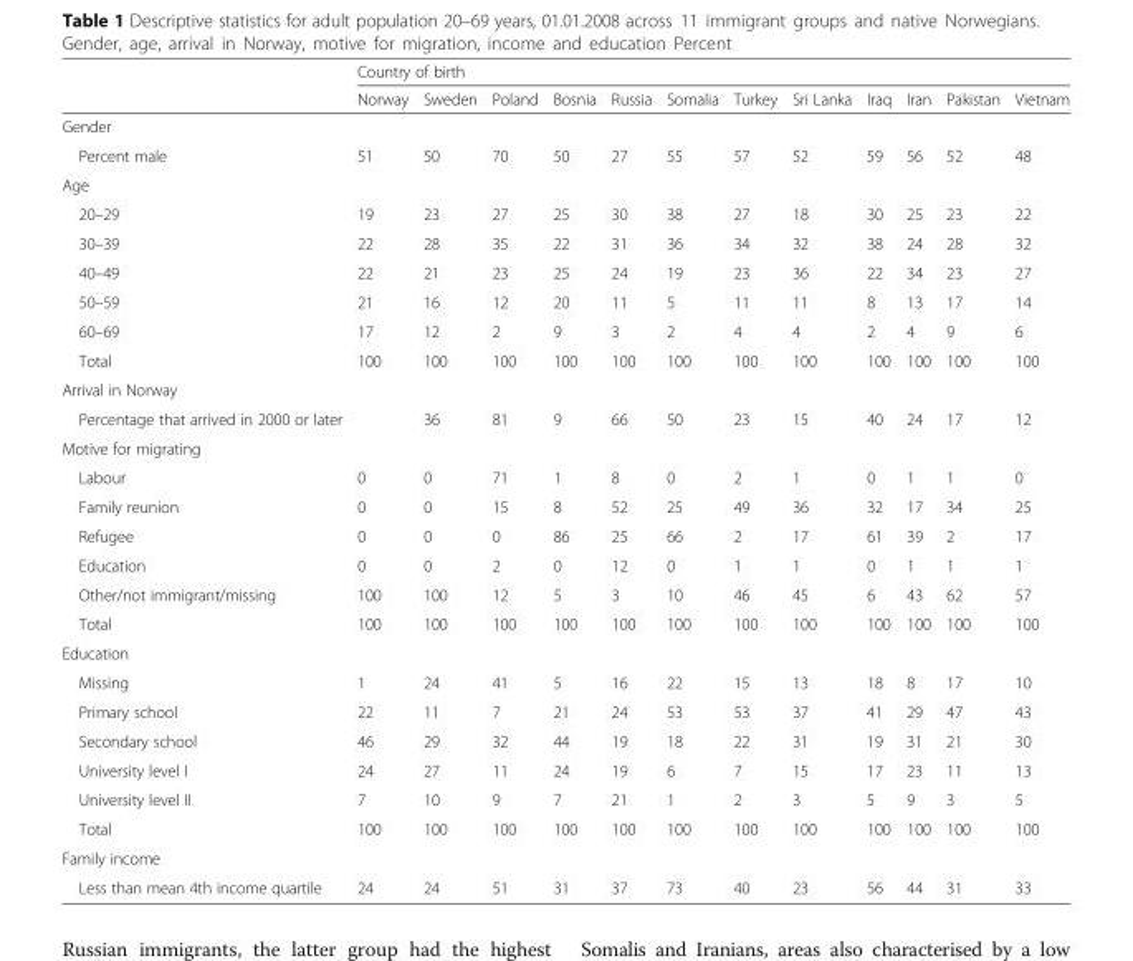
<table><thead><tr><td rowspan="2"></td><td colspan="12">Country of birth</td></tr><tr><td>Norway</td><td>Sweden</td><td>Poland</td><td>Bosnia</td><td>Russia</td><td>Somalia</td><td>Turkey</td><td>Sri Lanka</td><td>Iraq</td><td>Iran</td><td>Pakistan</td><td>Vietnam</td></tr></thead><tbody><tr><td colspan="13">Gender</td></tr><tr><td>Percent male</td><td>51</td><td>50</td><td>70</td><td>50</td><td>27</td><td>55</td><td>57</td><td>52</td><td>59</td><td>56</td><td>52</td><td>48</td></tr><tr><td colspan="13">Age</td></tr><tr><td>20–29</td><td>19</td><td>23</td><td>27</td><td>25</td><td>30</td><td>38</td><td>27</td><td>18</td><td>30</td><td>25</td><td>23</td><td>22</td></tr><tr><td>30–39</td><td>22</td><td>28</td><td>35</td><td>22</td><td>31</td><td>36</td><td>34</td><td>32</td><td>38</td><td>24</td><td>28</td><td>32</td></tr><tr><td>40–49</td><td>22</td><td>21</td><td>23</td><td>25</td><td>24</td><td>19</td><td>23</td><td>36</td><td>22</td><td>34</td><td>23</td><td>27</td></tr><tr><td>50–59</td><td>21</td><td>16</td><td>12</td><td>20</td><td>11</td><td>5</td><td>11</td><td>11</td><td>8</td><td>13</td><td>17</td><td>14</td></tr><tr><td>60–69</td><td>17</td><td>12</td><td>2</td><td>9</td><td>3</td><td>2</td><td>4</td><td>4</td><td>2</td><td>4</td><td>9</td><td>6</td></tr><tr><td>Total</td><td>100</td><td>100</td><td>100</td><td>100</td><td>100</td><td>100</td><td>100</td><td>100</td><td>100</td><td>100</td><td>100</td><td>100</td></tr><tr><td colspan="13">Arrival in Norway</td></tr><tr><td>Percentage that arrived in 2000 or later</td><td></td><td>36</td><td>81</td><td>9</td><td>66</td><td>50</td><td>23</td><td>15</td><td>40</td><td>24</td><td>17</td><td>12</td></tr><tr><td colspan="13">Motive for migrating</td></tr><tr><td>Labour</td><td>0</td><td>0</td><td>71</td><td>1</td><td>8</td><td>0</td><td>2</td><td>1</td><td>0</td><td>1</td><td>1</td><td>0</td></tr><tr><td>Family reunion</td><td>0</td><td>0</td><td>15</td><td>8</td><td>52</td><td>25</td><td>49</td><td>36</td><td>32</td><td>17</td><td>34</td><td>25</td></tr><tr><td>Refugee</td><td>0</td><td>0</td><td>0</td><td>86</td><td>25</td><td>66</td><td>2</td><td>17</td><td>61</td><td>39</td><td>2</td><td>17</td></tr><tr><td>Education</td><td>0</td><td>0</td><td>2</td><td>0</td><td>12</td><td>0</td><td>1</td><td>1</td><td>0</td><td>1</td><td>1</td><td>1</td></tr><tr><td>Other/not immigrant/missing</td><td>100</td><td>100</td><td>12</td><td>5</td><td>3</td><td>10</td><td>46</td><td>45</td><td>6</td><td>43</td><td>62</td><td>57</td></tr><tr><td>Total</td><td>100</td><td>100</td><td>100</td><td>100</td><td>100</td><td>100</td><td>100</td><td>100</td><td>100</td><td>100</td><td>100</td><td>100</td></tr><tr><td colspan="13">Education</td></tr><tr><td>Missing</td><td>1</td><td>24</td><td>41</td><td>5</td><td>16</td><td>22</td><td>15</td><td>13</td><td>18</td><td>8</td><td>17</td><td>10</td></tr><tr><td>Primary school</td><td>22</td><td>11</td><td>7</td><td>21</td><td>24</td><td>53</td><td>53</td><td>37</td><td>41</td><td>29</td><td>47</td><td>43</td></tr><tr><td>Secondary school</td><td>46</td><td>29</td><td>32</td><td>44</td><td>19</td><td>18</td><td>22</td><td>31</td><td>19</td><td>31</td><td>21</td><td>30</td></tr><tr><td>University level I</td><td>24</td><td>27</td><td>11</td><td>24</td><td>19</td><td>6</td><td>7</td><td>15</td><td>17</td><td>23</td><td>11</td><td>13</td></tr><tr><td>University level II</td><td>7</td><td>10</td><td>9</td><td>7</td><td>21</td><td>1</td><td>2</td><td>3</td><td>5</td><td>9</td><td>3</td><td>5</td></tr><tr><td>Total</td><td>100</td><td>100</td><td>100</td><td>100</td><td>100</td><td>100</td><td>100</td><td>100</td><td>100</td><td>100</td><td>100</td><td>100</td></tr><tr><td colspan="13">Family income</td></tr><tr><td>Less than mean 4th income quartile</td><td>24</td><td>24</td><td>51</td><td>31</td><td>37</td><td>73</td><td>40</td><td>23</td><td>56</td><td>44</td><td>31</td><td>33</td></tr></tbody></table>